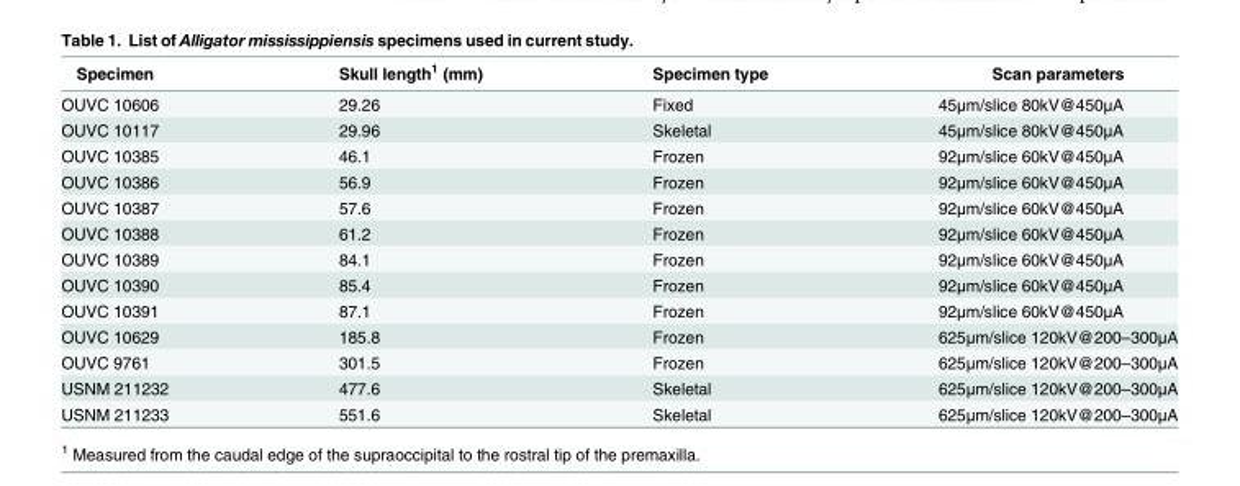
<table><thead><tr><td>Specimen</td><td>Skull length<sup>1</sup> (mm)</td><td>Specimen type</td><td>Scan parameters</td></tr></thead><tbody><tr><td>OUVC 10606</td><td>29.26</td><td>Fixed</td><td>45μm/slice 80kV@450μA</td></tr><tr><td>OUVC 10117</td><td>29.96</td><td>Skeletal</td><td>45μm/slice 80kV@450μA</td></tr><tr><td>OUVC 10385</td><td>46.1</td><td>Frozen</td><td>92μm/slice 60kV@450μA</td></tr><tr><td>OUVC 10386</td><td>56.9</td><td>Frozen</td><td>92μm/slice 60kV@450μA</td></tr><tr><td>OUVC 10387</td><td>57.6</td><td>Frozen</td><td>92μm/slice 60kV@450μA</td></tr><tr><td>OUVC 10388</td><td>61.2</td><td>Frozen</td><td>92μm/slice 60kV@450μA</td></tr><tr><td>OUVC 10389</td><td>84.1</td><td>Frozen</td><td>92μm/slice 60kV@450μA</td></tr><tr><td>OUVC 10390</td><td>85.4</td><td>Frozen</td><td>92μm/slice 60kV@450μA</td></tr><tr><td>OUVC 10391</td><td>87.1</td><td>Frozen</td><td>92μm/slice 60kV@450μA</td></tr><tr><td>OUVC 10629</td><td>185.8</td><td>Frozen</td><td>625μm/slice 120kV@200–300μA</td></tr><tr><td>OUVC 9761</td><td>301.5</td><td>Frozen</td><td>625μm/slice 120kV@200–300μA</td></tr><tr><td>USNM 211232</td><td>477.6</td><td>Skeletal</td><td>625μm/slice 120kV@200–300μA</td></tr><tr><td>USNM 211233</td><td>551.6</td><td>Skeletal</td><td>625μm/slice 120kV@200–300μA</td></tr></tbody></table>